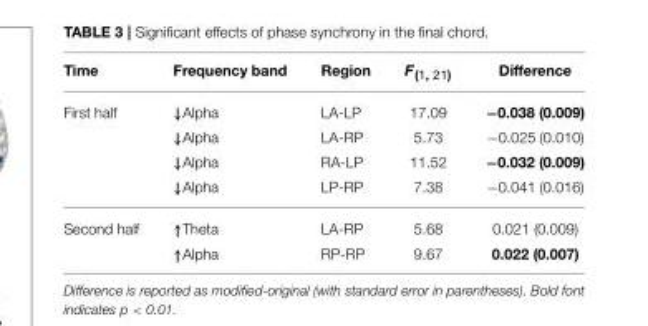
<table><thead><tr><td>Time</td><td>Frequency band</td><td>Region</td><td>F<sub>(1, 21)</sub></td><td>Difference</td></tr></thead><tbody><tr><td rowspan="4">First half</td><td>↓Alpha</td><td>LA-LP</td><td>17.09</td><td>−0.038 (0.009)</td></tr><tr><td>↓Alpha</td><td>LA-RP</td><td>5.73</td><td>−0.025 (0.010)</td></tr><tr><td>↓Alpha</td><td>RA-LP</td><td>11.52</td><td>−0.032 (0.009)</td></tr><tr><td>↓Alpha</td><td>LP-RP</td><td>7.38</td><td>−0.041 (0.016)</td></tr><tr><td rowspan="2">Second half</td><td>↑Theta</td><td>LA-RP</td><td>5.68</td><td>0.021 (0.009)</td></tr><tr><td>↑Alpha</td><td>RP-RP</td><td>9.67</td><td>0.022 (0.007)</td></tr></tbody></table>